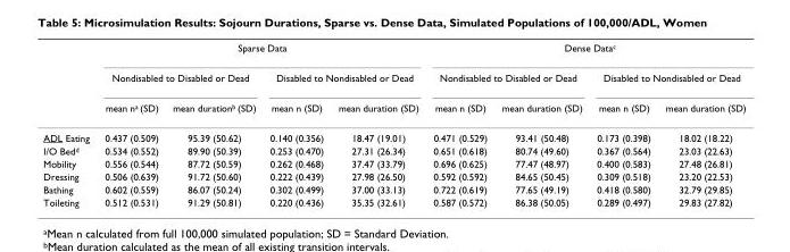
<table><thead><tr><td rowspan="3"></td><td colspan="4">Sparse Data</td><td colspan="4">Dense Data<sup>c</sup></td></tr><tr><td colspan="2">Nondisabled to Disabled or Dead</td><td colspan="2">Disabled to Nondisabled or Dead</td><td colspan="2">Nondisabled to Disabled or Dead</td><td colspan="2">Disabled to Nondisabled or Dead</td></tr><tr><td>mean n<sup>a</sup> (SD)</td><td>mean duration<sup>b</sup> (SD)</td><td>mean n (SD)</td><td>mean duration (SD)</td><td>mean n (SD)</td><td>mean duration (SD)</td><td>mean n (SD)</td><td>mean duration (SD)</td></tr></thead><tbody><tr><td>ADL Eating</td><td>0.437 (0.509)</td><td>95.39 (50.62)</td><td>0.140 (0.356)</td><td>18.47 (19.01)</td><td>0.471 (0.529)</td><td>93.41 (50.48)</td><td>0.173 (0.398)</td><td>18.02 (18.22)</td></tr><tr><td>I/O Bed<sup>d</sup></td><td>0.534 (0.552)</td><td>89.90 (50.39)</td><td>0.253 (0.470)</td><td>27.31 (26.34)</td><td>0.651 (0.618)</td><td>80.74 (49.60)</td><td>0.367 (0.564)</td><td>23.03 (22.63)</td></tr><tr><td>Mobility</td><td>0.556 (0.544)</td><td>87.72 (50.59)</td><td>0.262 (0.468)</td><td>37.47 (33.79)</td><td>0.696 (0.625)</td><td>77.47 (48.97)</td><td>0.400 (0.583)</td><td>27.48 (26.81)</td></tr><tr><td>Dressing</td><td>0.506 (0.639)</td><td>91.72 (50.60)</td><td>0.222 (0.439)</td><td>27.98 (26.50)</td><td>0.592 (0.592)</td><td>84.65 (50.45)</td><td>0.309 (0.518)</td><td>23.20 (22.53)</td></tr><tr><td>Bathing</td><td>0.602 (0.559)</td><td>86.07 (50.24)</td><td>0.302 (0.499)</td><td>37.00 (33.13)</td><td>0.722 (0.619)</td><td>77.65 (49.19)</td><td>0.418 (0.580)</td><td>32.79 (29.85)</td></tr><tr><td>Toileting</td><td>0.512 (0.531)</td><td>91.29 (50.81)</td><td>0.220 (0.436)</td><td>35.35 (32.61)</td><td>0.587 (0.572)</td><td>86.38 (50.05)</td><td>0.289 (0.497)</td><td>29.83 (27.82)</td></tr></tbody></table>